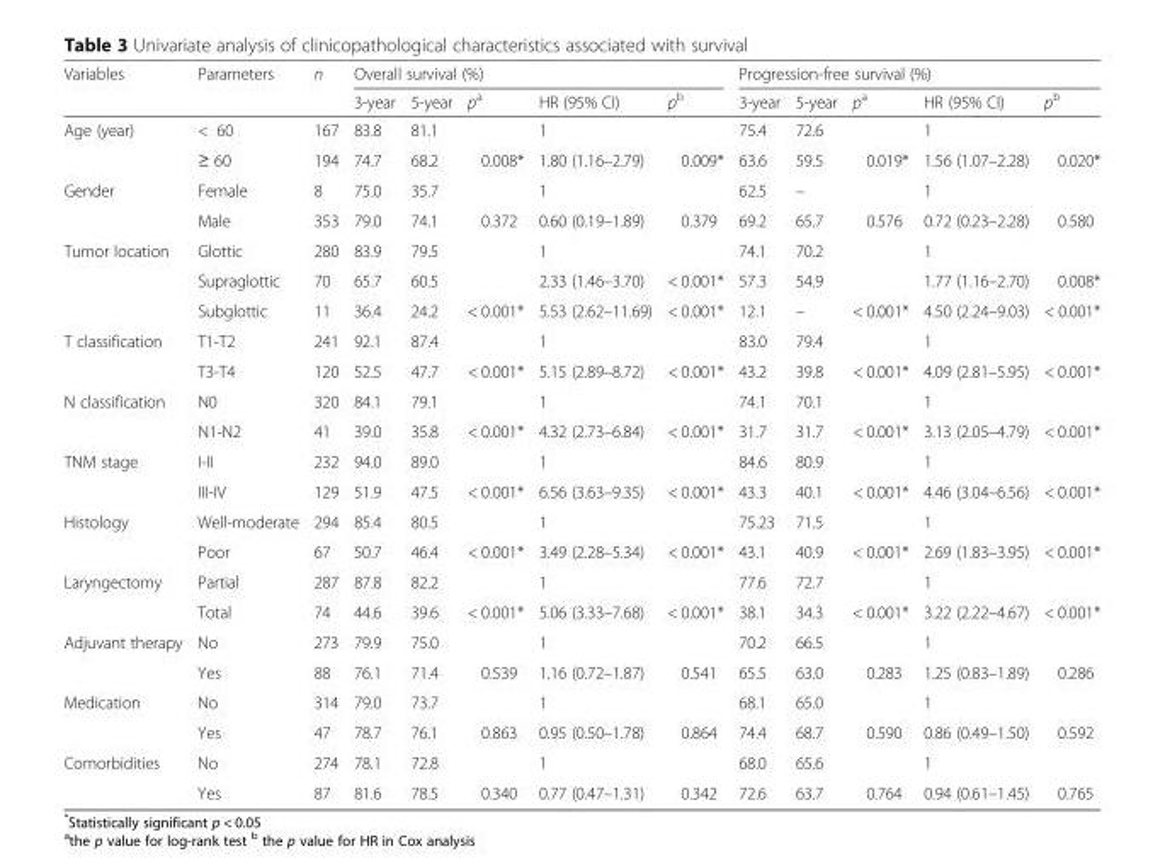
<table><thead><tr><td rowspan="2">Variables</td><td rowspan="2">Parameters</td><td rowspan="2">n</td><td colspan="5">Overall survival (%)</td><td colspan="5">Progression-free survival (%)</td></tr><tr><td>3-year</td><td>5-year</td><td>p<sup>a</sup></td><td>HR (95% CI)</td><td>p<sup>b</sup></td><td>3-year</td><td>5-year</td><td>p<sup>a</sup></td><td>HR (95% CI)</td><td>p<sup>b</sup></td></tr></thead><tbody><tr><td rowspan="2">Age (year)</td><td>&lt; 60</td><td>167</td><td>83.8</td><td>81.1</td><td></td><td>1</td><td></td><td>75.4</td><td>72.6</td><td></td><td>1</td><td></td></tr><tr><td>≥ 60</td><td>194</td><td>74.7</td><td>68.2</td><td>0.008*</td><td>1.80 (1.16–2.79)</td><td>0.009*</td><td>63.6</td><td>59.5</td><td>0.019*</td><td>1.56 (1.07–2.28)</td><td>0.020*</td></tr><tr><td rowspan="2">Gender</td><td>Female</td><td>8</td><td>75.0</td><td>35.7</td><td></td><td>1</td><td></td><td>62.5</td><td>–</td><td></td><td>1</td><td></td></tr><tr><td>Male</td><td>353</td><td>79.0</td><td>74.1</td><td>0.372</td><td>0.60 (0.19–1.89)</td><td>0.379</td><td>69.2</td><td>65.7</td><td>0.576</td><td>0.72 (0.23–2.28)</td><td>0.580</td></tr><tr><td rowspan="3">Tumor location</td><td>Glottic</td><td>280</td><td>83.9</td><td>79.5</td><td></td><td>1</td><td></td><td>74.1</td><td>70.2</td><td></td><td>1</td><td></td></tr><tr><td>Supraglottic</td><td>70</td><td>65.7</td><td>60.5</td><td></td><td>2.33 (1.46–3.70)</td><td>&lt; 0.001*</td><td>57.3</td><td>54.9</td><td></td><td>1.77 (1.16–2.70)</td><td>0.008*</td></tr><tr><td>Subglottic</td><td>11</td><td>36.4</td><td>24.2</td><td>&lt; 0.001*</td><td>5.53 (2.62–11.69)</td><td>&lt; 0.001*</td><td>12.1</td><td>–</td><td>&lt; 0.001*</td><td>4.50 (2.24–9.03)</td><td>&lt; 0.001*</td></tr><tr><td rowspan="2">T classification</td><td>T1-T2</td><td>241</td><td>92.1</td><td>87.4</td><td></td><td>1</td><td></td><td>83.0</td><td>79.4</td><td></td><td>1</td><td></td></tr><tr><td>T3-T4</td><td>120</td><td>52.5</td><td>47.7</td><td>&lt; 0.001*</td><td>5.15 (2.89–8.72)</td><td>&lt; 0.001*</td><td>43.2</td><td>39.8</td><td>&lt; 0.001*</td><td>4.09 (2.81–5.95)</td><td>&lt; 0.001*</td></tr><tr><td rowspan="2">N classification</td><td>N0</td><td>320</td><td>84.1</td><td>79.1</td><td></td><td>1</td><td></td><td>74.1</td><td>70.1</td><td></td><td>1</td><td></td></tr><tr><td>N1-N2</td><td>41</td><td>39.0</td><td>35.8</td><td>&lt; 0.001*</td><td>4.32 (2.73–6.84)</td><td>&lt; 0.001*</td><td>31.7</td><td>31.7</td><td>&lt; 0.001*</td><td>3.13 (2.05–4.79)</td><td>&lt; 0.001*</td></tr><tr><td rowspan="2">TNM stage</td><td>I-II</td><td>232</td><td>94.0</td><td>89.0</td><td></td><td>1</td><td></td><td>84.6</td><td>80.9</td><td></td><td>1</td><td></td></tr><tr><td>III-IV</td><td>129</td><td>51.9</td><td>47.5</td><td>&lt; 0.001*</td><td>6.56 (3.63–9.35)</td><td>&lt; 0.001*</td><td>43.3</td><td>40.1</td><td>&lt; 0.001*</td><td>4.46 (3.04–6.56)</td><td>&lt; 0.001*</td></tr><tr><td rowspan="2">Histology</td><td>Well-moderate</td><td>294</td><td>85.4</td><td>80.5</td><td></td><td>1</td><td></td><td>75.23</td><td>71.5</td><td></td><td>1</td><td></td></tr><tr><td>Poor</td><td>67</td><td>50.7</td><td>46.4</td><td>&lt; 0.001*</td><td>3.49 (2.28–5.34)</td><td>&lt; 0.001*</td><td>43.1</td><td>40.9</td><td>&lt; 0.001*</td><td>2.69 (1.83–3.95)</td><td>&lt; 0.001*</td></tr><tr><td rowspan="2">Laryngectomy</td><td>Partial</td><td>287</td><td>87.8</td><td>82.2</td><td></td><td>1</td><td></td><td>77.6</td><td>72.7</td><td></td><td>1</td><td></td></tr><tr><td>Total</td><td>74</td><td>44.6</td><td>39.6</td><td>&lt; 0.001*</td><td>5.06 (3.33–7.68)</td><td>&lt; 0.001*</td><td>38.1</td><td>34.3</td><td>&lt; 0.001*</td><td>3.22 (2.22–4.67)</td><td>&lt; 0.001*</td></tr><tr><td rowspan="2">Adjuvant therapy</td><td>No</td><td>273</td><td>79.9</td><td>75.0</td><td></td><td>1</td><td></td><td>70.2</td><td>66.5</td><td></td><td>1</td><td></td></tr><tr><td>Yes</td><td>88</td><td>76.1</td><td>71.4</td><td>0.539</td><td>1.16 (0.72–1.87)</td><td>0.541</td><td>65.5</td><td>63.0</td><td>0.283</td><td>1.25 (0.83–1.89)</td><td>0.286</td></tr><tr><td rowspan="2">Medication</td><td>No</td><td>314</td><td>79.0</td><td>73.7</td><td></td><td>1</td><td></td><td>68.1</td><td>65.0</td><td></td><td>1</td><td></td></tr><tr><td>Yes</td><td>47</td><td>78.7</td><td>76.1</td><td>0.863</td><td>0.95 (0.50–1.78)</td><td>0.864</td><td>74.4</td><td>68.7</td><td>0.590</td><td>0.86 (0.49–1.50)</td><td>0.592</td></tr><tr><td rowspan="2">Comorbidities</td><td>No</td><td>274</td><td>78.1</td><td>72.8</td><td></td><td>1</td><td></td><td>68.0</td><td>65.6</td><td></td><td>1</td><td></td></tr><tr><td>Yes</td><td>87</td><td>81.6</td><td>78.5</td><td>0.340</td><td>0.77 (0.47–1.31)</td><td>0.342</td><td>72.6</td><td>63.7</td><td>0.764</td><td>0.94 (0.61–1.45)</td><td>0.765</td></tr></tbody></table>